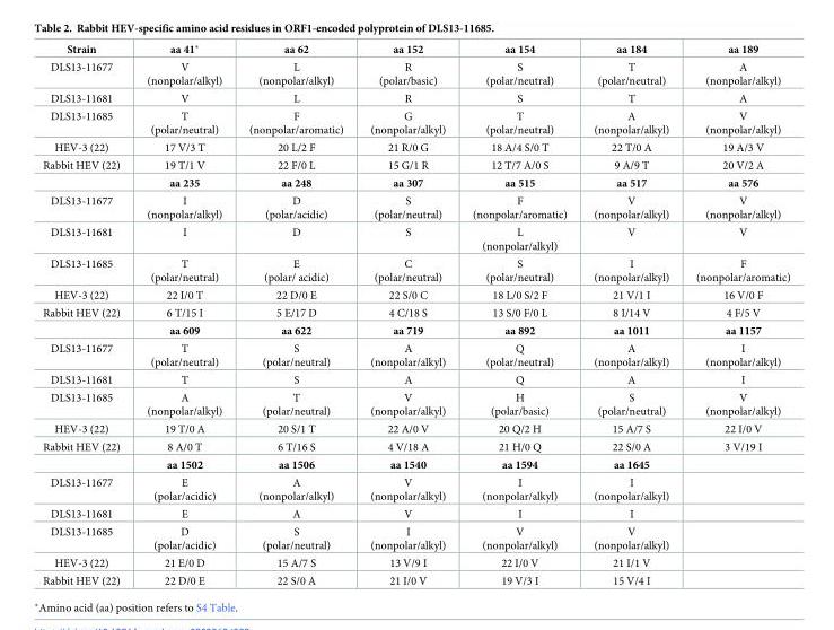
<table><thead><tr><td>Strain</td><td>aa 41*</td><td>aa 62</td><td>aa 152</td><td>aa 154</td><td>aa 184</td><td>aa 189</td></tr></thead><tbody><tr><td>DLS13-11677</td><td>V (nonpolar/alkyl)</td><td>L (nonpolar/alkyl)</td><td>R (polar/basic)</td><td>S (polar/neutral)</td><td>T (polar/neutral)</td><td>A (nonpolar/alkyl)</td></tr><tr><td>DLS13-11681</td><td>V</td><td>L</td><td>R</td><td>S</td><td>T</td><td>A</td></tr><tr><td>DLS13-11685</td><td>T (polar/neutral)</td><td>F (nonpolar/aromatic)</td><td>G (nonpolar/alkyl)</td><td>T (polar/neutral)</td><td>A (nonpolar/alkyl)</td><td>V (nonpolar/alkyl)</td></tr><tr><td>HEV-3 (22)</td><td>17 V/3 T</td><td>20 L/2 F</td><td>21 R/0 G</td><td>18 A/4 S/0 T</td><td>22 T/0 A</td><td>19 A/3 V</td></tr><tr><td rowspan="2">Rabbit HEV (22)</td><td>19 T/1 V</td><td>22 F/0 L</td><td>15 G/1 R</td><td>12 T/7 A/0 S</td><td>9 A/9 T</td><td>20 V/2 A</td></tr><tr><td>aa 235</td><td>aa 248</td><td>aa 307</td><td>aa 515</td><td>aa 517</td><td>aa 576</td></tr><tr><td>DLS13-11677</td><td>I (nonpolar/alkyl)</td><td>D (polar/acidic)</td><td>S (polar/neutral)</td><td>F (nonpolar/aromatic)</td><td>V (nonpolar/alkyl)</td><td>V (nonpolar/alkyl)</td></tr><tr><td>DLS13-11681</td><td>I</td><td>D</td><td>S</td><td>L (nonpolar/alkyl)</td><td>V</td><td>V</td></tr><tr><td>DLS13-11685</td><td>T (polar/neutral)</td><td>E (polar/ acidic)</td><td>C (polar/neutral)</td><td>S (polar/neutral)</td><td>I (nonpolar/alkyl)</td><td>F (nonpolar/aromatic)</td></tr><tr><td>HEV-3 (22)</td><td>22 I/0 T</td><td>22 D/0 E</td><td>22 S/0 C</td><td>18 L/0 S/2 F</td><td>21 V/1 I</td><td>16 V/0 F</td></tr><tr><td rowspan="2">Rabbit HEV (22)</td><td>6 T/15 I</td><td>5 E/17 D</td><td>4 C/18 S</td><td>13 S/0 F/0 L</td><td>8 I/14 V</td><td>4 F/5 V</td></tr><tr><td>aa 609</td><td>aa 622</td><td>aa 719</td><td>aa 892</td><td>aa 1011</td><td>aa 1157</td></tr><tr><td>DLS13-11677</td><td>T (polar/neutral)</td><td>S (polar/neutral)</td><td>A (nonpolar/alkyl)</td><td>Q (polar/neutral)</td><td>A (nonpolar/alkyl)</td><td>I (nonpolar/alkyl)</td></tr><tr><td>DLS13-11681</td><td>T</td><td>S</td><td>A</td><td>Q</td><td>A</td><td>I</td></tr><tr><td>DLS13-11685</td><td>A (nonpolar/alkyl)</td><td>T (polar/neutral)</td><td>V (nonpolar/alkyl)</td><td>H (polar/basic)</td><td>S (polar/neutral)</td><td>V (nonpolar/alkyl)</td></tr><tr><td>HEV-3 (22)</td><td>19 T/0 A</td><td>20 S/1 T</td><td>22 A/0 V</td><td>20 Q/2 H</td><td>15 A/7 S</td><td>22 I/0 V</td></tr><tr><td rowspan="2">Rabbit HEV (22)</td><td>8 A/0 T</td><td>6 T/16 S</td><td>4 V/18 A</td><td>21 H/0 Q</td><td>22 S/0 A</td><td>3 V/19 I</td></tr><tr><td>aa 1502</td><td>aa 1506</td><td>aa 1540</td><td>aa 1594</td><td>aa 1645</td><td></td></tr><tr><td>DLS13-11677</td><td>E (polar/acidic)</td><td>A (nonpolar/alkyl)</td><td>V (nonpolar/alkyl)</td><td>I (nonpolar/alkyl)</td><td>I (nonpolar/alkyl)</td><td></td></tr><tr><td>DLS13-11681</td><td>E</td><td>A</td><td>V</td><td>I</td><td>I</td><td></td></tr><tr><td>DLS13-11685</td><td>D (polar/acidic)</td><td>S (polar/neutral)</td><td>I (nonpolar/alkyl)</td><td>V (nonpolar/alkyl)</td><td>V (nonpolar/alkyl)</td><td></td></tr><tr><td>HEV-3 (22)</td><td>21 E/0 D</td><td>15 A/7 S</td><td>13 V/9 I</td><td>22 I/0 V</td><td>21 I/1 V</td><td></td></tr><tr><td>Rabbit HEV (22)</td><td>22 D/0 E</td><td>22 S/0 A</td><td>21 I/0 V</td><td>19 V/3 I</td><td>15 V/4 I</td><td></td></tr></tbody></table>